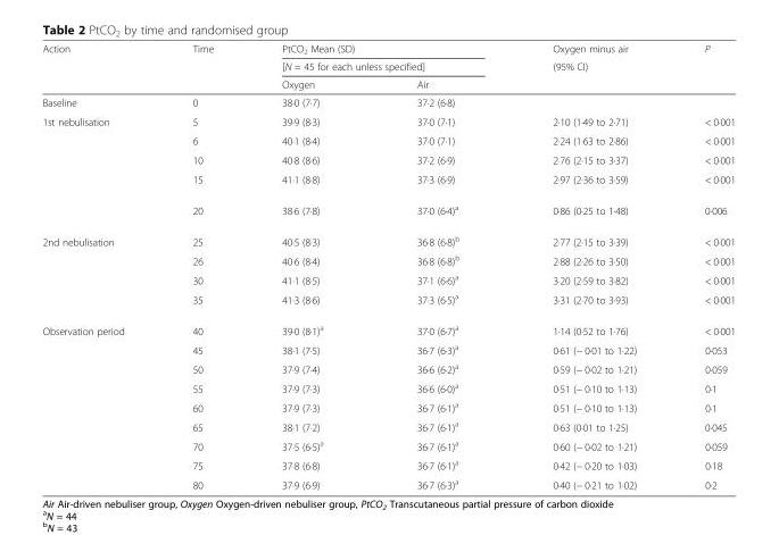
<table><thead><tr><td rowspan="3">Action</td><td rowspan="3">Time</td><td rowspan="2" colspan="2">PtCO<sub>2</sub> Mean (SD) [N = 45 for each unless specified]</td><td rowspan="3">Oxygen minus air (95% CI)</td><td rowspan="3">P</td></tr><tr></tr><tr><td>Oxygen</td><td>Air</td></tr></thead><tbody><tr><td>Baseline</td><td>0</td><td>38·0 (7·7)</td><td>37·2 (6·8)</td><td></td><td></td></tr><tr><td rowspan="5">1st nebulisation</td><td>5</td><td>39·9 (8·3)</td><td>37·0 (7·1)</td><td>2·10 (1·49 to 2·71)</td><td>&lt; 0·001</td></tr><tr><td>6</td><td>40·1 (8·4)</td><td>37·0 (7·1)</td><td>2·24 (1·63 to 2·86)</td><td>&lt; 0·001</td></tr><tr><td>10</td><td>40·8 (8·6)</td><td>37·2 (6·9)</td><td>2·76 (2·15 to 3·37)</td><td>&lt; 0·001</td></tr><tr><td>15</td><td>41·1 (8·8)</td><td>37·3 (6·9)</td><td>2·97 (2·36 to 3·59)</td><td>&lt; 0·001</td></tr><tr><td>20</td><td>38·6 (7·8)</td><td>37·0 (6·4)<sup>a</sup></td><td>0·86 (0·25 to 1·48)</td><td>0·006</td></tr><tr><td rowspan="4">2nd nebulisation</td><td>25</td><td>40·5 (8·3)</td><td>36·8 (6·8)<sup>b</sup></td><td>2·77 (2·15 to 3·39)</td><td>&lt; 0·001</td></tr><tr><td>26</td><td>40·6 (8·4)</td><td>36·8 (6·8)<sup>b</sup></td><td>2·88 (2·26 to 3·50)</td><td>&lt; 0·001</td></tr><tr><td>30</td><td>41·1 (8·5)</td><td>37·1 (6·6)<sup>a</sup></td><td>3·20 (2·59 to 3·82)</td><td>&lt; 0·001</td></tr><tr><td>35</td><td>41·3 (8·6)</td><td>37·3 (6·5)<sup>a</sup></td><td>3·31 (2·70 to 3·93)</td><td>&lt; 0·001</td></tr><tr><td rowspan="9">Observation period</td><td>40</td><td>39·0 (8·1)<sup>a</sup></td><td>37·0 (6·7)<sup>a</sup></td><td>1·14 (0·52 to 1·76)</td><td>&lt; 0·001</td></tr><tr><td>45</td><td>38·1 (7·5)</td><td>36·7 (6·3)<sup>a</sup></td><td>0·61 (− 0·01 to 1·22)</td><td>0·053</td></tr><tr><td>50</td><td>37·9 (7·4)</td><td>36·6 (6·2)<sup>a</sup></td><td>0·59 (− 0·02 to 1·21)</td><td>0·059</td></tr><tr><td>55</td><td>37·9 (7·3)</td><td>36·6 (6·0)<sup>a</sup></td><td>0·51 (− 0·10 to 1·13)</td><td>0·1</td></tr><tr><td>60</td><td>37·9 (7·3)</td><td>36·7 (6·1)<sup>a</sup></td><td>0·51 (− 0·10 to 1·13)</td><td>0·1</td></tr><tr><td>65</td><td>38·1 (7·2)</td><td>36·7 (6·1)<sup>a</sup></td><td>0·63 (0·01 to 1·25)</td><td>0·045</td></tr><tr><td>70</td><td>37·5 (6·5)<sup>a</sup></td><td>36·7 (6·1)<sup>a</sup></td><td>0·60 (− 0·02 to 1·21)</td><td>0·059</td></tr><tr><td>75</td><td>37·8 (6·8)</td><td>36·7 (6·1)<sup>a</sup></td><td>0·42 (− 0·20 to 1·03)</td><td>0·18</td></tr><tr><td>80</td><td>37·9 (6·9)</td><td>36·7 (6·3)<sup>a</sup></td><td>0·40 (− 0·21 to 1·02)</td><td>0·2</td></tr></tbody></table>